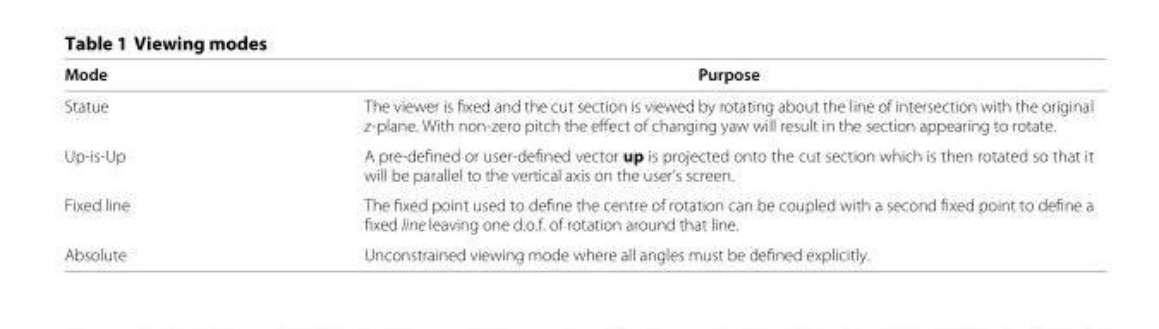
<table><thead><tr><td>Mode</td><td>Purpose</td></tr></thead><tbody><tr><td>Statue</td><td>The viewer is fixed and the cut section is viewed by rotating about the line of intersection with the original z-plane. With non-zero pitch the effect of changing yaw will result in the section appearing to rotate.</td></tr><tr><td>Up-is-Up</td><td>A pre-defined or user-defined vector up is projected onto the cut section which is then rotated so that it will be parallel to the vertical axis on the user’s screen.</td></tr><tr><td>Fixed line</td><td>The fixed point used to define the centre of rotation can be coupled with a second fixed point to define a fixed line leaving one d.o.f. of rotation around that line.</td></tr><tr><td>Absolute</td><td>Unconstrained viewing mode where all angles must be defined explicitly.</td></tr></tbody></table>